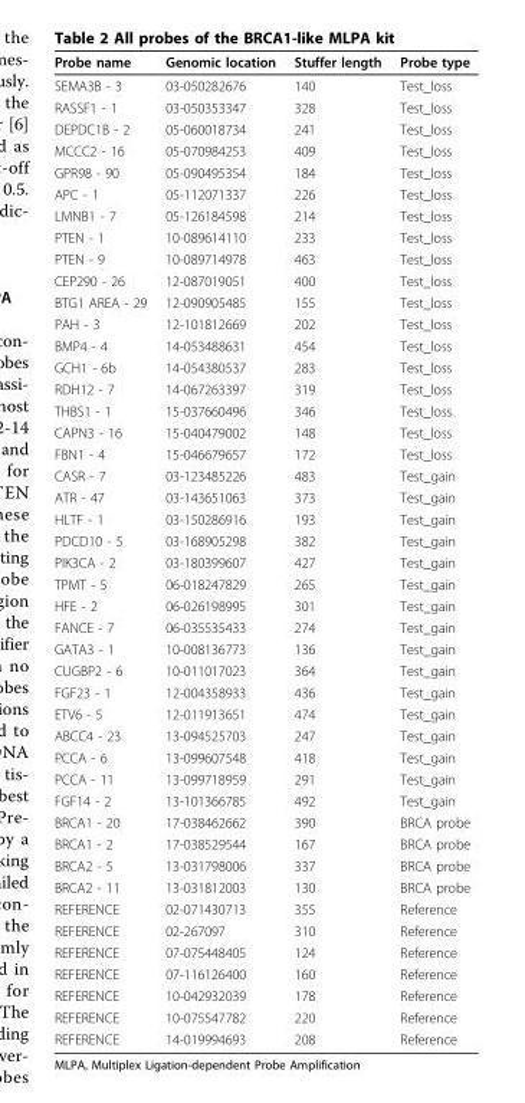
<table><thead><tr><td>Probe name</td><td>Genomic location</td><td>Stuffer length</td><td>Probe type</td></tr></thead><tbody><tr><td>SEMA3B - 3</td><td>03-050282676</td><td>140</td><td>Test_loss</td></tr><tr><td>RASSF1 - 1</td><td>03-050353347</td><td>328</td><td>Test_loss</td></tr><tr><td>DEPDC1B - 2</td><td>05-060018734</td><td>241</td><td>Test_loss</td></tr><tr><td>MCCC2 - 16</td><td>05-070984253</td><td>409</td><td>Test_loss</td></tr><tr><td>GPR98 - 90</td><td>05-090495354</td><td>184</td><td>Test_loss</td></tr><tr><td>APC - 1</td><td>05-112071337</td><td>226</td><td>Test_loss</td></tr><tr><td>LMNB1 - 7</td><td>05-126184598</td><td>214</td><td>Test_loss</td></tr><tr><td>PTEN - 1</td><td>10-089614110</td><td>233</td><td>Test_loss</td></tr><tr><td>PTEN - 9</td><td>10-089714978</td><td>463</td><td>Test_loss</td></tr><tr><td>CEP290 - 26</td><td>12-087019051</td><td>400</td><td>Test_loss</td></tr><tr><td>BTG1 AREA - 29</td><td>12-090905485</td><td>155</td><td>Test_loss</td></tr><tr><td>PAH - 3</td><td>12-101812669</td><td>202</td><td>Test_loss</td></tr><tr><td>BMP4 - 4</td><td>14-053488631</td><td>454</td><td>Test_loss</td></tr><tr><td>GCH1 - 6b</td><td>14-054380537</td><td>283</td><td>Test_loss</td></tr><tr><td>RDH12 - 7</td><td>14-067263397</td><td>319</td><td>Test_loss</td></tr><tr><td>THBS1 - 1</td><td>15-037660496</td><td>346</td><td>Test_loss</td></tr><tr><td>CAPN3 - 16</td><td>15-040479002</td><td>148</td><td>Test_loss</td></tr><tr><td>FBN1 - 4</td><td>15-046679657</td><td>172</td><td>Test_loss</td></tr><tr><td>CASR - 7</td><td>03-123485226</td><td>483</td><td>Test_gain</td></tr><tr><td>ATR - 47</td><td>03-143651063</td><td>373</td><td>Test_gain</td></tr><tr><td>HLTF - 1</td><td>03-150286916</td><td>193</td><td>Test_gain</td></tr><tr><td>PDCD10 - 5</td><td>03-168905298</td><td>382</td><td>Test_gain</td></tr><tr><td>PIK3CA - 2</td><td>03-180399607</td><td>427</td><td>Test_gain</td></tr><tr><td>TPMT - 5</td><td>06-018247829</td><td>265</td><td>Test_gain</td></tr><tr><td>HFE - 2</td><td>06-026198995</td><td>301</td><td>Test_gain</td></tr><tr><td>FANCE - 7</td><td>06-035535433</td><td>274</td><td>Test_gain</td></tr><tr><td>GATA3 - 1</td><td>10-008136773</td><td>136</td><td>Test_gain</td></tr><tr><td>CUGBP2 - 6</td><td>10-011017023</td><td>364</td><td>Test_gain</td></tr><tr><td>FGF23 - 1</td><td>12-004358933</td><td>436</td><td>Test_gain</td></tr><tr><td>ETV6 - 5</td><td>12-011913651</td><td>474</td><td>Test_gain</td></tr><tr><td>ABCC4 - 23</td><td>13-094525703</td><td>247</td><td>Test_gain</td></tr><tr><td>PCCA - 6</td><td>13-099607548</td><td>418</td><td>Test_gain</td></tr><tr><td>PCCA - 11</td><td>13-099718959</td><td>291</td><td>Test_gain</td></tr><tr><td>FGF14 - 2</td><td>13-101366785</td><td>492</td><td>Test_gain</td></tr><tr><td>BRCA1 - 20</td><td>17-038462662</td><td>390</td><td>BRCA probe</td></tr><tr><td>BRCA1 - 2</td><td>17-038529544</td><td>167</td><td>BRCA probe</td></tr><tr><td>BRCA2 - 5</td><td>13-031798006</td><td>337</td><td>BRCA probe</td></tr><tr><td>BRCA2 - 11</td><td>13-031812003</td><td>130</td><td>BRCA probe</td></tr><tr><td>REFERENCE</td><td>02-071430713</td><td>355</td><td>Reference</td></tr><tr><td>REFERENCE</td><td>02-267097</td><td>310</td><td>Reference</td></tr><tr><td>REFERENCE</td><td>07-075448405</td><td>124</td><td>Reference</td></tr><tr><td>REFERENCE</td><td>07-116126400</td><td>160</td><td>Reference</td></tr><tr><td>REFERENCE</td><td>10-042932039</td><td>178</td><td>Reference</td></tr><tr><td>REFERENCE</td><td>10-075547782</td><td>220</td><td>Reference</td></tr><tr><td>REFERENCE</td><td>14-019994693</td><td>208</td><td>Reference</td></tr></tbody></table>